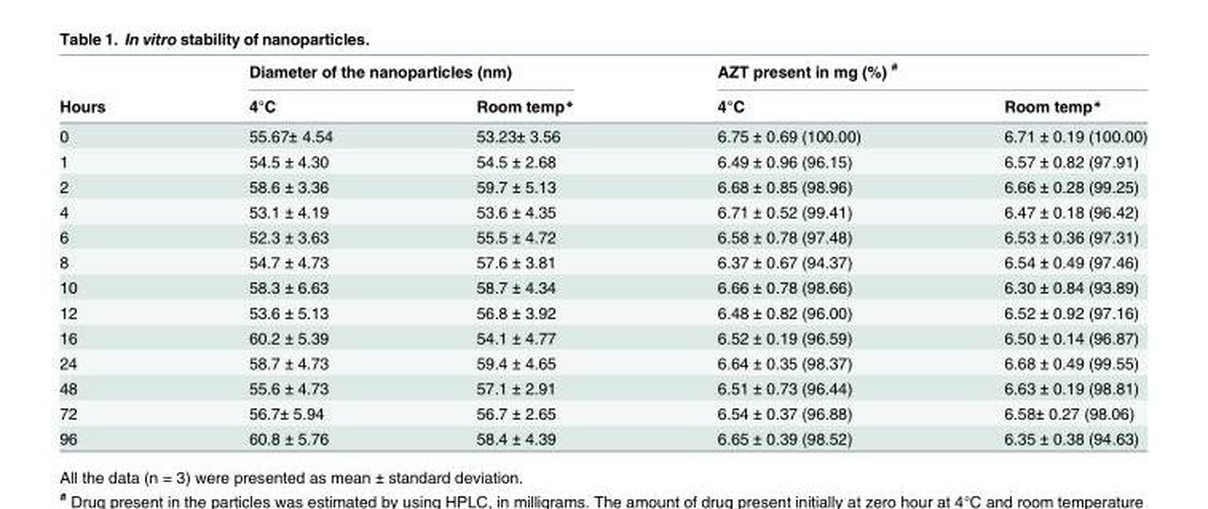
<table><thead><tr><td rowspan="2">Hours</td><td colspan="2">Diameter of the nanoparticles (nm)</td><td colspan="2">AZT present in mg (%) <sup>#</sup></td></tr><tr><td>4°C</td><td>Room temp*</td><td>4°C</td><td>Room temp*</td></tr></thead><tbody><tr><td>0</td><td>55.67± 4.54</td><td>53.23± 3.56</td><td>6.75 ± 0.69 (100.00)</td><td>6.71 ± 0.19 (100.00)</td></tr><tr><td>1</td><td>54.5 ± 4.30</td><td>54.5 ± 2.68</td><td>6.49 ± 0.96 (96.15)</td><td>6.57 ± 0.82 (97.91)</td></tr><tr><td>2</td><td>58.6 ± 3.36</td><td>59.7 ± 5.13</td><td>6.68 ± 0.85 (98.96)</td><td>6.66 ± 0.28 (99.25)</td></tr><tr><td>4</td><td>53.1 ± 4.19</td><td>53.6 ± 4.35</td><td>6.71 ± 0.52 (99.41)</td><td>6.47 ± 0.18 (96.42)</td></tr><tr><td>6</td><td>52.3 ± 3.63</td><td>55.5 ± 4.72</td><td>6.58 ± 0.78 (97.48)</td><td>6.53 ± 0.36 (97.31)</td></tr><tr><td>8</td><td>54.7 ± 4.73</td><td>57.6 ± 3.81</td><td>6.37 ± 0.67 (94.37)</td><td>6.54 ± 0.49 (97.46)</td></tr><tr><td>10</td><td>58.3 ± 6.63</td><td>58.7 ± 4.34</td><td>6.66 ± 0.78 (98.66)</td><td>6.30 ± 0.84 (93.89)</td></tr><tr><td>12</td><td>53.6 ± 5.13</td><td>56.8 ± 3.92</td><td>6.48 ± 0.82 (96.00)</td><td>6.52 ± 0.92 (97.16)</td></tr><tr><td>16</td><td>60.2 ± 5.39</td><td>54.1 ± 4.77</td><td>6.52 ± 0.19 (96.59)</td><td>6.50 ± 0.14 (96.87)</td></tr><tr><td>24</td><td>58.7 ± 4.73</td><td>59.4 ± 4.65</td><td>6.64 ± 0.35 (98.37)</td><td>6.68 ± 0.49 (99.55)</td></tr><tr><td>48</td><td>55.6 ± 4.73</td><td>57.1 ± 2.91</td><td>6.51 ± 0.73 (96.44)</td><td>6.63 ± 0.19 (98.81)</td></tr><tr><td>72</td><td>56.7± 5.94</td><td>56.7 ± 2.65</td><td>6.54 ± 0.37 (96.88)</td><td>6.58± 0.27 (98.06)</td></tr><tr><td>96</td><td>60.8 ± 5.76</td><td>58.4 ± 4.39</td><td>6.65 ± 0.39 (98.52)</td><td>6.35 ± 0.38 (94.63)</td></tr></tbody></table>